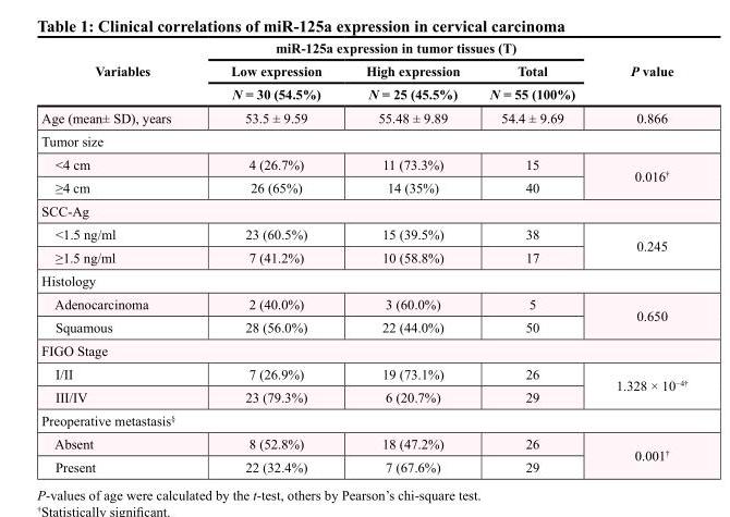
<table><thead><tr><td rowspan="3">Variables</td><td colspan="3">miR-125a expression in tumor tissues (T)</td><td rowspan="3">P value</td></tr><tr><td rowspan="2">Low expression N = 30 (54.5%)</td><td rowspan="2">High expression N = 25 (45.5%)</td><td rowspan="2">Total N = 55 (100%)</td></tr><tr></tr></thead><tbody><tr><td>Age (mean± SD), years</td><td>53.5 ± 9.59</td><td>55.48 ± 9.89</td><td>54.4 ± 9.69</td><td>0.866</td></tr><tr><td colspan="5">Tumor size</td></tr><tr><td>&lt;4 cm</td><td>4 (26.7%)</td><td>11 (73.3%)</td><td>15</td><td rowspan="2">0.016<sup>†</sup></td></tr><tr><td>≥4 cm</td><td>26 (65%)</td><td>14 (35%)</td><td>40</td></tr><tr><td colspan="5">SCC-Ag</td></tr><tr><td>&lt;1.5 ng/ml</td><td>23 (60.5%)</td><td>15 (39.5%)</td><td>38</td><td rowspan="2">0.245</td></tr><tr><td>≥1.5 ng/ml</td><td>7 (41.2%)</td><td>10 (58.8%)</td><td>17</td></tr><tr><td colspan="5">Histology</td></tr><tr><td>Adenocarcinoma</td><td>2 (40.0%)</td><td>3 (60.0%)</td><td>5</td><td rowspan="2">0.650</td></tr><tr><td>Squamous</td><td>28 (56.0%)</td><td>22 (44.0%)</td><td>50</td></tr><tr><td colspan="5">FIGO Stage</td></tr><tr><td>I/II</td><td>7 (26.9%)</td><td>19 (73.1%)</td><td>26</td><td rowspan="2">1.328 × 10<sup>−4†</sup></td></tr><tr><td>III/IV</td><td>23 (79.3%)</td><td>6 (20.7%)</td><td>29</td></tr><tr><td colspan="5">Preoperative metastasis§</td></tr><tr><td>Absent</td><td>8 (52.8%)</td><td>18 (47.2%)</td><td>26</td><td rowspan="2">0.001<sup>†</sup></td></tr><tr><td>Present</td><td>22 (32.4%)</td><td>7 (67.6%)</td><td>29</td></tr></tbody></table>